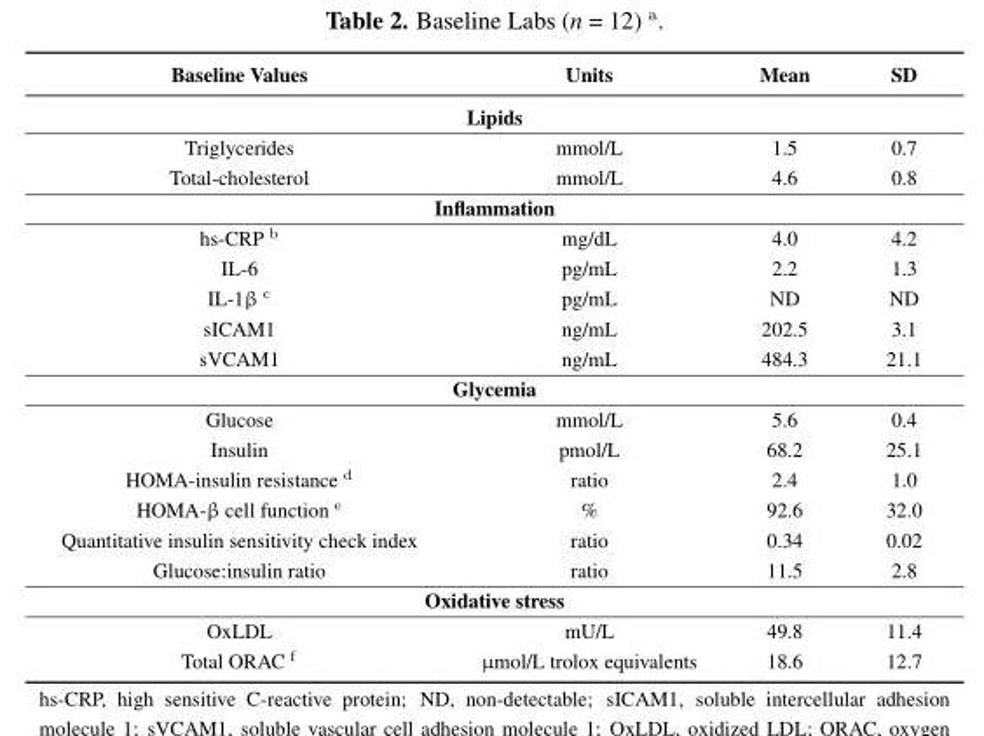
<table><thead><tr><td>Baseline Values</td><td>Units</td><td>Mean</td><td>SD</td></tr></thead><tbody><tr><td colspan="4">Lipids</td></tr><tr><td>Triglycerides</td><td>mmol/L</td><td>1.5</td><td>0.7</td></tr><tr><td>Total-cholesterol</td><td>mmol/L</td><td>4.6</td><td>0.8</td></tr><tr><td colspan="4">Inflammation</td></tr><tr><td>hs-CRP <sup>b</sup></td><td>mg/dL</td><td>4.0</td><td>4.2</td></tr><tr><td>IL-6</td><td>pg/mL</td><td>2.2</td><td>1.3</td></tr><tr><td>IL-1β <sup>c</sup></td><td>pg/mL</td><td>ND</td><td>ND</td></tr><tr><td>sICAM1</td><td>ng/mL</td><td>202.5</td><td>3.1</td></tr><tr><td>sVCAM1</td><td>ng/mL</td><td>484.3</td><td>21.1</td></tr><tr><td colspan="4">Glycemia</td></tr><tr><td>Glucose</td><td>mmol/L</td><td>5.6</td><td>0.4</td></tr><tr><td>Insulin</td><td>pmol/L</td><td>68.2</td><td>25.1</td></tr><tr><td>HOMA-insulin resistance <sup>d</sup></td><td>ratio</td><td>2.4</td><td>1.0</td></tr><tr><td>HOMA-β cell function <sup>e</sup></td><td>%</td><td>92.6</td><td>32.0</td></tr><tr><td>Quantitative insulin sensitivity check index</td><td>ratio</td><td>0.34</td><td>0.02</td></tr><tr><td>Glucose:insulin ratio</td><td>ratio</td><td>11.5</td><td>2.8</td></tr><tr><td colspan="4">Oxidative stress</td></tr><tr><td>OxLDL</td><td>mU/L</td><td>49.8</td><td>11.4</td></tr><tr><td>Total ORAC <sup>f</sup></td><td>µmol/L trolox equivalents</td><td>18.6</td><td>12.7</td></tr></tbody></table>